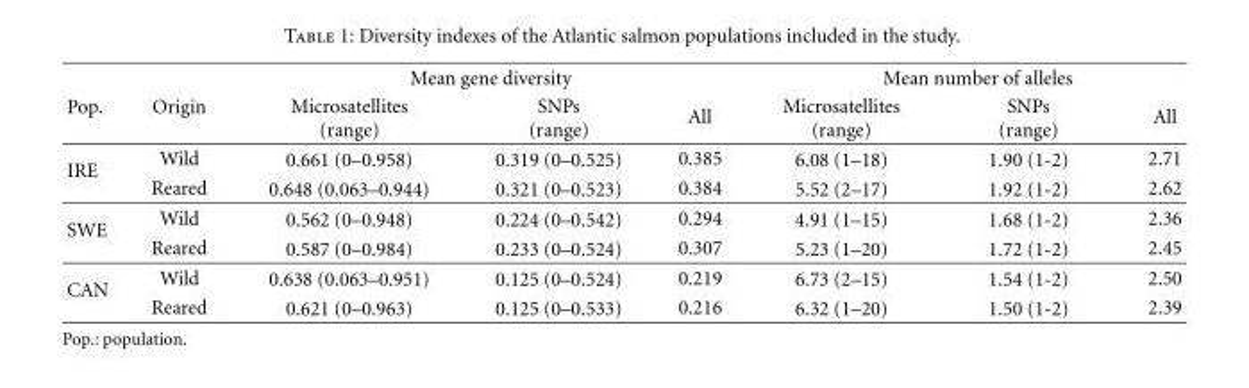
<table><thead><tr><td rowspan="2">Pop.</td><td rowspan="2">Origin</td><td colspan="3">Mean gene diversity</td><td colspan="3">Mean number of alleles</td></tr><tr><td>Microsatellites (range)</td><td>SNPs (range)</td><td>All</td><td>Microsatellites (range)</td><td>SNPs (range)</td><td>All</td></tr></thead><tbody><tr><td rowspan="2">IRE</td><td>Wild</td><td>0.661 (0–0.958)</td><td>0.319 (0–0.525)</td><td>0.385</td><td>6.08 (1–18)</td><td>1.90 (1-2)</td><td>2.71</td></tr><tr><td>Reared</td><td>0.648 (0.063–0.944)</td><td>0.321 (0–0.523)</td><td>0.384</td><td>5.52 (2–17)</td><td>1.92 (1-2)</td><td>2.62</td></tr><tr><td rowspan="2">SWE</td><td>Wild</td><td>0.562 (0–0.948)</td><td>0.224 (0–0.542)</td><td>0.294</td><td>4.91 (1–15)</td><td>1.68 (1-2)</td><td>2.36</td></tr><tr><td>Reared</td><td>0.587 (0–0.984)</td><td>0.233 (0–0.524)</td><td>0.307</td><td>5.23 (1–20)</td><td>1.72 (1-2)</td><td>2.45</td></tr><tr><td rowspan="2">CAN</td><td>Wild</td><td>0.638 (0.063–0.951)</td><td>0.125 (0–0.524)</td><td>0.219</td><td>6.73 (2–15)</td><td>1.54 (1-2)</td><td>2.50</td></tr><tr><td>Reared</td><td>0.621 (0–0.963)</td><td>0.125 (0–0.533)</td><td>0.216</td><td>6.32 (1–20)</td><td>1.50 (1-2)</td><td>2.39</td></tr></tbody></table>